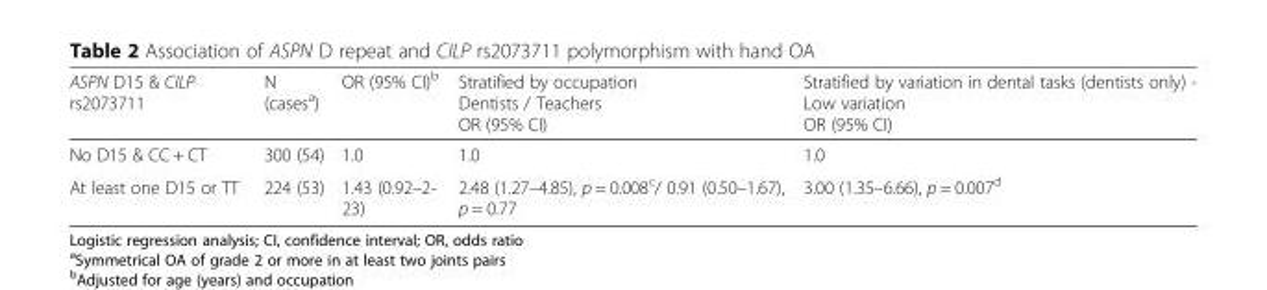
<table><thead><tr><td>ASPN D15 &amp; CILP rs2073711</td><td>N (cases<sup>a</sup>)</td><td>OR (95% CI)<sup>b</sup></td><td>Stratified by occupation Dentists / Teachers OR (95% CI)</td><td>Stratified by variation in dental tasks (dentists only) - Low variation OR (95% CI)</td></tr></thead><tbody><tr><td>No D15 &amp; CC + CT</td><td>300 (54)</td><td>1.0</td><td>1.0</td><td>1.0</td></tr><tr><td>At least one D15 or TT</td><td>224 (53)</td><td>1.43 (0.92–2- 23)</td><td>2.48 (1.27–4.85), p = 0.008<sup>c</sup>/ 0.91 (0.50–1.67), p = 0.77</td><td>3.00 (1.35–6.66), p = 0.007<sup>d</sup></td></tr></tbody></table>